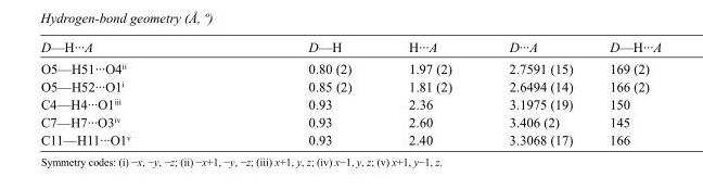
<table><tbody><tr><td>D—H···A</td><td>D—H</td><td>H···A</td><td>D···A</td><td>D—H···A</td></tr><tr><td>O5—H51···O4<sup>ii</sup></td><td>0.80 (2)</td><td>1.97 (2)</td><td>2.7591 (15)</td><td>169 (2)</td></tr><tr><td>O5—H52···O1<sup>i</sup></td><td>0.85 (2)</td><td>1.81 (2)</td><td>2.6494 (14)</td><td>166 (2)</td></tr><tr><td>C4—H4···O1<sup>iii</sup></td><td>0.93</td><td>2.36</td><td>3.1975 (19)</td><td>150</td></tr><tr><td>C7—H7···O3<sup>iv</sup></td><td>0.93</td><td>2.60</td><td>3.406 (2)</td><td>145</td></tr><tr><td>C11—H11···O1<sup>v</sup></td><td>0.93</td><td>2.40</td><td>3.3068 (17)</td><td>166</td></tr></tbody></table>